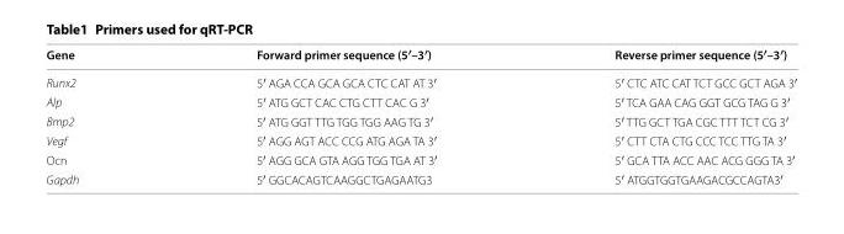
<table><thead><tr><td>Gene</td><td>Forward primer sequence (5′–3′)</td><td>Reverse primer sequence (5′–3′)</td></tr></thead><tbody><tr><td>Runx2</td><td>5′ AGA CCA GCA GCA CTC CAT AT 3′</td><td>5′ CTC ATC CAT TCT GCC GCT AGA 3′</td></tr><tr><td>Alp</td><td>5′ ATG GCT CAC CTG CTT CAC G 3′</td><td>5′ TCA GAA CAG GGT GCG TAG G 3′</td></tr><tr><td>Bmp2</td><td>5′ ATG GGT TTG TGG TGG AAG TG 3′</td><td>5′ TTG GCT TGA CGC TTT TCT CG 3′</td></tr><tr><td>Vegf</td><td>5′ AGG AGT ACC CCG ATG AGA TA 3′</td><td>5′ CTT CTA CTG CCC TCC TTG TA 3′</td></tr><tr><td>Ocn</td><td>5′ AGG GCA GTA AGG TGG TGA AT 3′</td><td>5′ GCA TTA ACC AAC ACG GGG TA 3′</td></tr><tr><td>Gapdh</td><td>5′ GGC ACA GTC AAG GCT GAG AATG3</td><td>5′ ATG GTG GTG AAG ACG CCA GTA3′</td></tr></tbody></table>